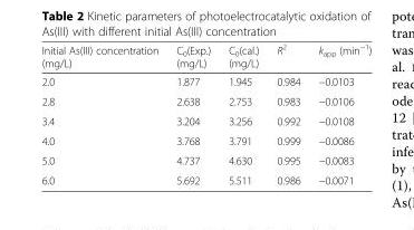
<table><thead><tr><td>Initial As(III) concentration (mg/L)</td><td>C<sub>0</sub>(Exp.) (mg/L)</td><td>C<sub>0</sub>(cal.) (mg/L)</td><td>R<sup>2</sup></td><td>k<sub>app</sub> (min<sup>−1</sup>)</td></tr></thead><tbody><tr><td>2.0</td><td>1.877</td><td>1.945</td><td>0.984</td><td>−0.0103</td></tr><tr><td>2.8</td><td>2.638</td><td>2.753</td><td>0.983</td><td>−0.0106</td></tr><tr><td>3.4</td><td>3.204</td><td>3.256</td><td>0.992</td><td>−0.0108</td></tr><tr><td>4.0</td><td>3.768</td><td>3.791</td><td>0.999</td><td>−0.0086</td></tr><tr><td>5.0</td><td>4.737</td><td>4.630</td><td>0.995</td><td>−0.0083</td></tr><tr><td>6.0</td><td>5.692</td><td>5.511</td><td>0.986</td><td>−0.0071</td></tr></tbody></table>